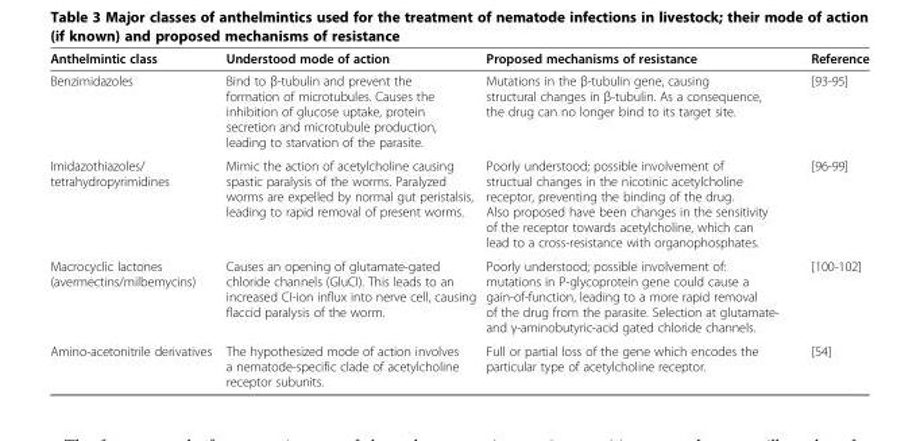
<table><thead><tr><td>Anthelmintic class</td><td>Understood mode of action</td><td>Proposed mechanisms of resistance</td><td>Reference</td></tr></thead><tbody><tr><td>Benzimidazoles</td><td>Bind to β-tubulin and prevent the formation of microtubules. Causes the inhibition of glucose uptake, protein secretion and microtubule production, leading to starvation of the parasite.</td><td>Mutations in the β-tubulin gene, causing structural changes in β-tubulin. As a consequence, the drug can no longer bind to its target site.</td><td>[93-95]</td></tr><tr><td>Imidazothiazoles/ tetrahydropyrimidines</td><td>Mimic the action of acetylcholine causing spastic paralysis of the worms. Paralyzed worms are expelled by normal gut peristalsis, leading to rapid removal of present worms.</td><td>Poorly understood; possible involvement of structual changes in the nicotinic acetylcholine receptor, preventing the binding of the drug. Also proposed have been changes in the sensitivity of the receptor towards acetylcholine, which can lead to a cross-resistance with organophosphates.</td><td>[96-99]</td></tr><tr><td>Macrocyclic lactones (avermectins/milbemycins)</td><td>Causes an opening of glutamate-gated chloride channels (GluCI). This leads to an increased CI-ion influx into nerve cell, causing flaccid paralysis of the worm.</td><td>Poorly understood; possible involvement of: mutations in P-glycoprotein gene could cause a gain-of-function, leading to a more rapid removal of the drug from the parasite. Selection at glutamate- and γ-aminobutyric-acid gated chloride channels.</td><td>[100-102]</td></tr><tr><td>Amino-acetonitrile derivatives</td><td>The hypothesized mode of action involves a nematode-specific clade of acetylcholine receptor subunits.</td><td>Full or partial loss of the gene which encodes the particular type of acetylcholine receptor.</td><td>[54]</td></tr></tbody></table>